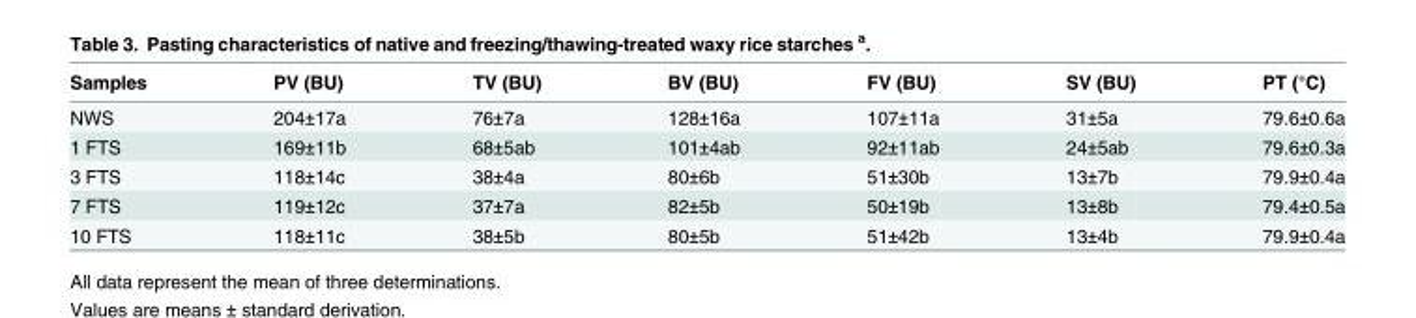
<table><thead><tr><td>Samples</td><td>PV (BU)</td><td>TV (BU)</td><td>BV (BU)</td><td>FV (BU)</td><td>SV (BU)</td><td>PT (°C)</td></tr></thead><tbody><tr><td>NWS</td><td>204±17a</td><td>76±7a</td><td>128±16a</td><td>107±11a</td><td>31±5a</td><td>79.6±0.6a</td></tr><tr><td>1 FTS</td><td>169±11b</td><td>68±5ab</td><td>101±4ab</td><td>92±11ab</td><td>24±5ab</td><td>79.6±0.3a</td></tr><tr><td>3 FTS</td><td>118±14c</td><td>38±4a</td><td>80±6b</td><td>51±30b</td><td>13±7b</td><td>79.9±0.4a</td></tr><tr><td>7 FTS</td><td>119±12c</td><td>37±7a</td><td>82±5b</td><td>50±19b</td><td>13±8b</td><td>79.4±0.5a</td></tr><tr><td>10 FTS</td><td>118±11c</td><td>38±5b</td><td>80±5b</td><td>51±42b</td><td>13±4b</td><td>79.9±0.4a</td></tr></tbody></table>